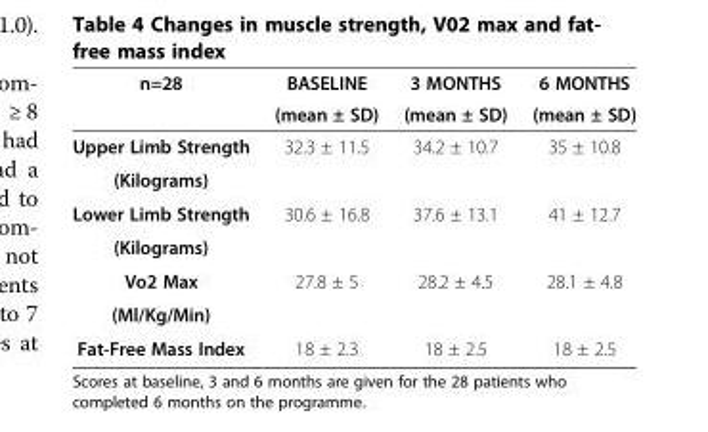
<table><thead><tr><td>n=28</td><td>BASELINE (mean ± SD)</td><td>3 MONTHS (mean ± SD)</td><td>6 MONTHS (mean ± SD)</td></tr></thead><tbody><tr><td>Upper Limb Strength</td><td rowspan="2">32.3 ± 11.5</td><td rowspan="2">34.2 ± 10.7</td><td rowspan="2">35 ± 10.8</td></tr><tr><td>(Kilograms)</td></tr><tr><td>Lower Limb Strength</td><td rowspan="2">30.6 ± 16.8</td><td rowspan="2">37.6 ± 13.1</td><td rowspan="2">41 ± 12.7</td></tr><tr><td>(Kilograms)</td></tr><tr><td>Vo2 Max</td><td rowspan="2">27.8 ± 5</td><td rowspan="2">28.2 ± 4.5</td><td rowspan="2">28.1 ± 4.8</td></tr><tr><td>(Ml/Kg/Min)</td></tr><tr><td>Fat-Free Mass Index</td><td>18 ± 2.3</td><td>18 ± 2.5</td><td>18 ± 2.5</td></tr></tbody></table>